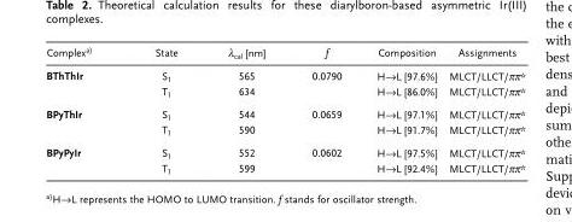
<table><thead><tr><td>Complexa)</td><td>State</td><td>λ<sub>cal</sub> [nm]</td><td>f</td><td>Composition</td><td>Assignments</td></tr></thead><tbody><tr><td>BThThIr</td><td>S<sub>1</sub> T<sub>1</sub></td><td>565 634</td><td>0.0790</td><td>H→L [97.6%] H→L [86.0%]</td><td>MLCT/LLCT/ππ* MLCT/LLCT/ππ*</td></tr><tr><td>BPyThIr</td><td>S<sub>1</sub> T<sub>1</sub></td><td>544 590</td><td>0.0659</td><td>H→L [97.1%] H→L [91.7%]</td><td>MLCT/LLCT/ππ* MLCT/LLCT/ππ*</td></tr><tr><td>BPyPyIr</td><td>S<sub>1</sub> T<sub>1</sub></td><td>552 599</td><td>0.0602</td><td>H→L [97.5%] H→L [92.4%]</td><td>MLCT/LLCT/ππ* MLCT/LLCT/ππ*</td></tr></tbody></table>